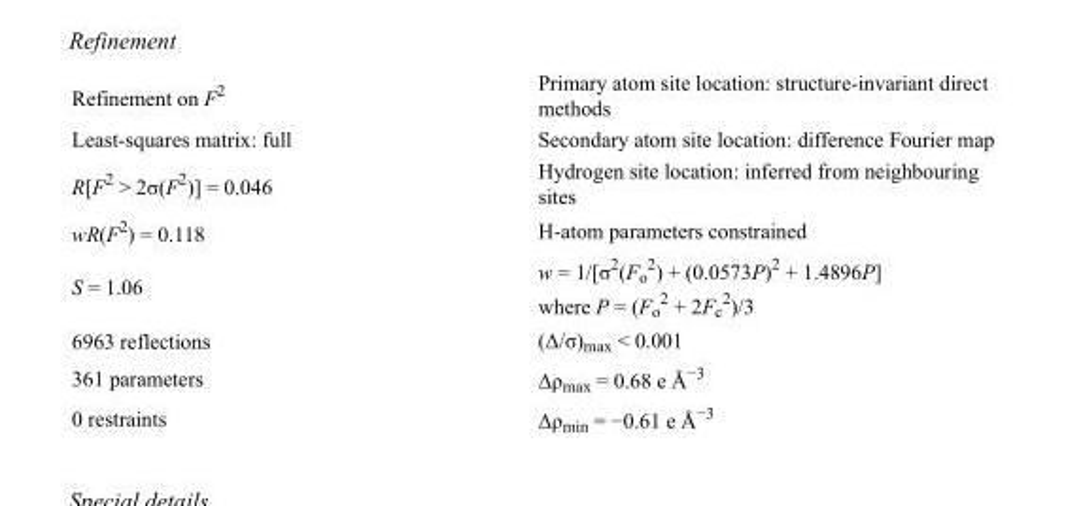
<table><tbody><tr><td>Refinement on F<sup>2</sup></td><td>Primary atom site location: structure-invariant direct methods</td></tr><tr><td>Least-squares matrix: full</td><td>Secondary atom site location: difference Fourier map</td></tr><tr><td>R[F<sup>2</sup> &gt; 2σ(F<sup>2</sup>)] = 0.046</td><td>Hydrogen site location: inferred from neighbouring sites</td></tr><tr><td>wR(F<sup>2</sup>) = 0.118</td><td>H-atom parameters constrained</td></tr><tr><td>S = 1.06</td><td>w = 1/[σ<sup>2</sup>(F<sub>o</sub> <sup>2</sup>) + (0.0573P)<sup>2</sup> + 1.4896P] where P = (F<sub>o</sub> <sup>2</sup> + 2F<sub>c</sub> <sup>2</sup>)/3</td></tr><tr><td>6963 reflections</td><td>(Δ/σ)<sub>max</sub> &lt; 0.001</td></tr><tr><td>361 parameters</td><td>Δρ<sub>max</sub> = 0.68 e Å<sup>−3</sup></td></tr><tr><td>0 restraints</td><td>Δρ<sub>min</sub> = −0.61 e Å<sup>−3</sup></td></tr></tbody></table>